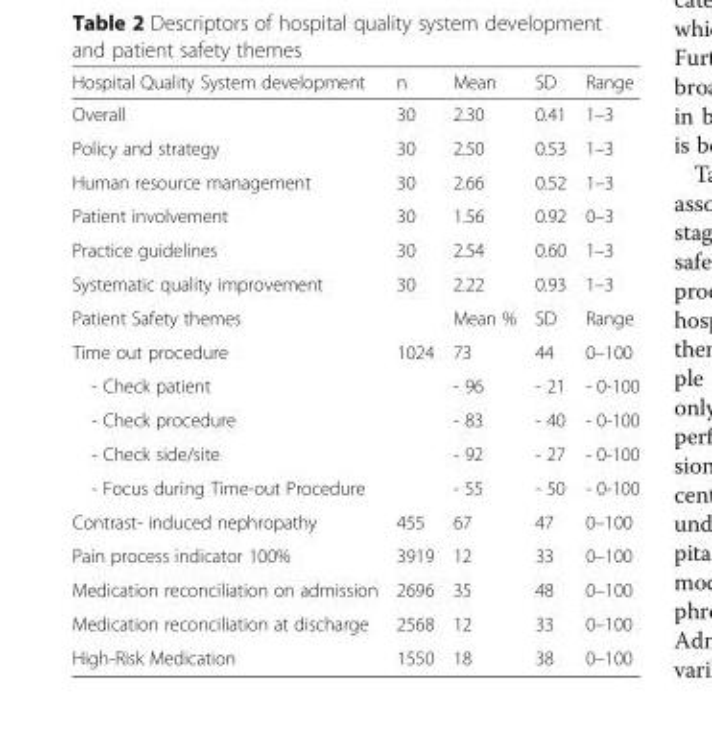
<table><thead><tr><td>Hospital Quality System development</td><td>n</td><td>Mean</td><td>SD</td><td>Range</td></tr></thead><tbody><tr><td>Overall</td><td>30</td><td>2.30</td><td>0.41</td><td>1–3</td></tr><tr><td>Policy and strategy</td><td>30</td><td>2.50</td><td>0.53</td><td>1–3</td></tr><tr><td>Human resource management</td><td>30</td><td>2.66</td><td>0.52</td><td>1–3</td></tr><tr><td>Patient involvement</td><td>30</td><td>1.56</td><td>0.92</td><td>0–3</td></tr><tr><td>Practice guidelines</td><td>30</td><td>2.54</td><td>0.60</td><td>1–3</td></tr><tr><td>Systematic quality improvement</td><td>30</td><td>2.22</td><td>0.93</td><td>1–3</td></tr><tr><td>Patient Safety themes</td><td></td><td>Mean %</td><td>SD</td><td>Range</td></tr><tr><td>Time out procedure</td><td>1024</td><td>73</td><td>44</td><td>0–100</td></tr><tr><td>- Check patient</td><td></td><td>- 96</td><td>- 21</td><td>- 0-100</td></tr><tr><td>- Check procedure</td><td></td><td>- 83</td><td>- 40</td><td>- 0-100</td></tr><tr><td>- Check side/site</td><td></td><td>- 92</td><td>- 27</td><td>- 0-100</td></tr><tr><td>- Focus during Time-out Procedure</td><td></td><td>- 55</td><td>- 50</td><td>- 0-100</td></tr><tr><td>Contrast- induced nephropathy</td><td>455</td><td>67</td><td>47</td><td>0–100</td></tr><tr><td>Pain process indicator 100%</td><td>3919</td><td>12</td><td>33</td><td>0–100</td></tr><tr><td>Medication reconciliation on admission</td><td>2696</td><td>35</td><td>48</td><td>0–100</td></tr><tr><td>Medication reconciliation at discharge</td><td>2568</td><td>12</td><td>33</td><td>0–100</td></tr><tr><td>High-Risk Medication</td><td>1550</td><td>18</td><td>38</td><td>0–100</td></tr></tbody></table>